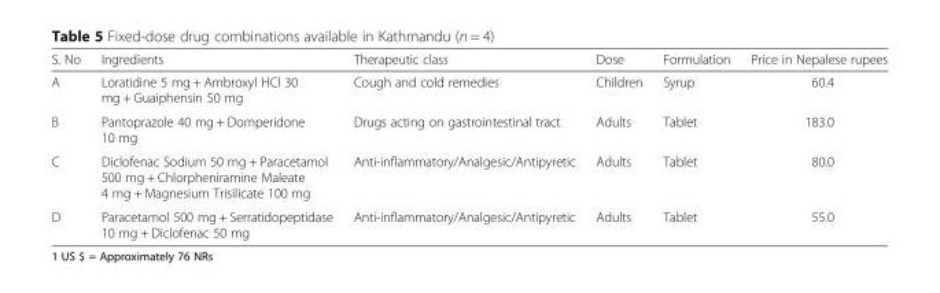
<table><thead><tr><td>S. No</td><td>Ingredients</td><td>Therapeutic class</td><td>Dose</td><td>Formulation</td><td>Price in Nepalese rupees</td></tr></thead><tbody><tr><td>A</td><td>Loratidine 5 mg + Ambroxyl HCl 30 mg + Guaiphensin 50 mg</td><td>Cough and cold remedies</td><td>Children</td><td>Syrup</td><td>60.4</td></tr><tr><td>B</td><td>Pantoprazole 40 mg + Domperidone 10 mg</td><td>Drugs acting on gastrointestinal tract</td><td>Adults</td><td>Tablet</td><td>183.0</td></tr><tr><td>C</td><td>Diclofenac Sodium 50 mg + Paracetamol 500 mg + Chlorpheniramine Maleate 4 mg + Magnesium Trisilicate 100 mg</td><td>Anti-inflammatory/Analgesic/Antipyretic</td><td>Adults</td><td>Tablet</td><td>80.0</td></tr><tr><td>D</td><td>Paracetamol 500 mg + Serratidopeptidase 10 mg + Diclofenac 50 mg</td><td>Anti-inflammatory/Analgesic/Antipyretic</td><td>Adults</td><td>Tablet</td><td>55.0</td></tr></tbody></table>